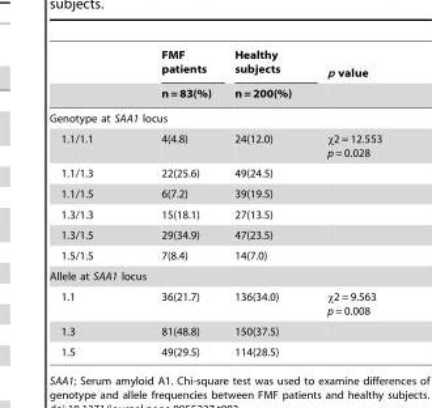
<table><thead><tr><td rowspan="2"></td><td rowspan="2">FMF patients n = 83(%)</td><td rowspan="2">Healthy subjects n = 200(%)</td><td rowspan="2">p value</td></tr><tr></tr></thead><tbody><tr><td colspan="4">Genotype at SAA1 locus</td></tr><tr><td>1.1/1.1</td><td>4(4.8)</td><td>24(12.0)</td><td>χ2 = 12.553 p = 0.028</td></tr><tr><td>1.1/1.3</td><td>22(25.6)</td><td>49(24.5)</td><td></td></tr><tr><td>1.1/1.5</td><td>6(7.2)</td><td>39(19.5)</td><td></td></tr><tr><td>1.3/1.3</td><td>15(18.1)</td><td>27(13.5)</td><td></td></tr><tr><td>1.3/1.5</td><td>29(34.9)</td><td>47(23.5)</td><td></td></tr><tr><td>1.5/1.5</td><td>7(8.4)</td><td>14(7.0)</td><td></td></tr><tr><td colspan="4">Allele at SAA1 locus</td></tr><tr><td>1.1</td><td>36(21.7)</td><td>136(34.0)</td><td>χ2 = 9.563 p = 0.008</td></tr><tr><td>1.3</td><td>81(48.8)</td><td>150(37.5)</td><td></td></tr><tr><td>1.5</td><td>49(29.5)</td><td>114(28.5)</td><td></td></tr></tbody></table>